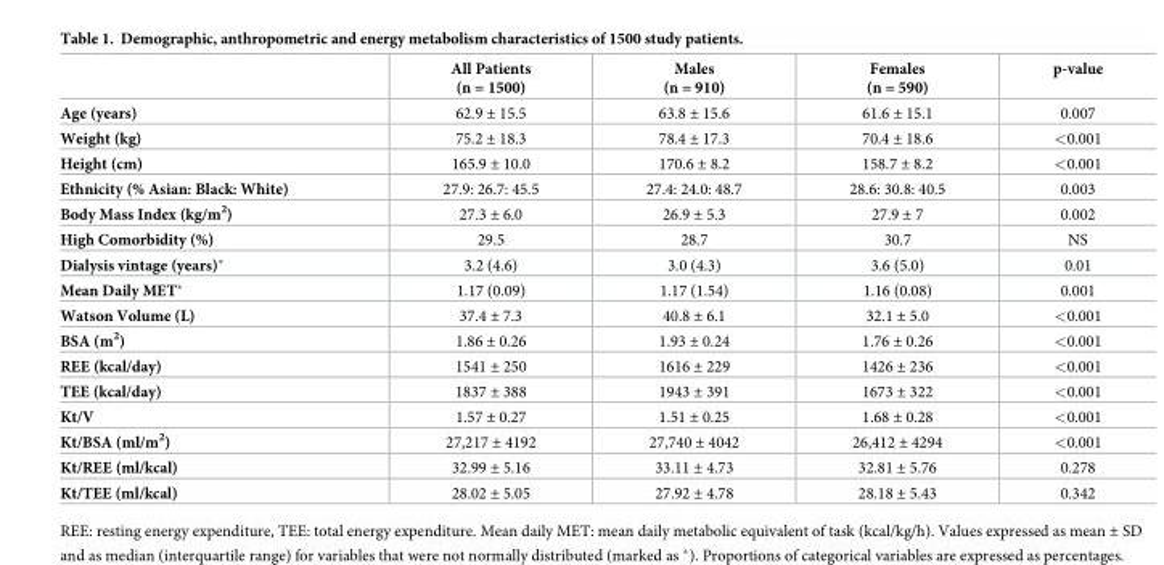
<table><thead><tr><td></td><td>All Patients (n = 1500)</td><td>Males (n = 910)</td><td>Females (n = 590)</td><td>p-value</td></tr></thead><tbody><tr><td>Age (years)</td><td>62.9 ± 15.5</td><td>63.8 ± 15.6</td><td>61.6 ± 15.1</td><td>0.007</td></tr><tr><td>Weight (kg)</td><td>75.2 ± 18.3</td><td>78.4 ± 17.3</td><td>70.4 ± 18.6</td><td>&lt;0.001</td></tr><tr><td>Height (cm)</td><td>165.9 ± 10.0</td><td>170.6 ± 8.2</td><td>158.7 ± 8.2</td><td>&lt;0.001</td></tr><tr><td>Ethnicity (% Asian: Black: White)</td><td>27.9: 26.7: 45.5</td><td>27.4: 24.0: 48.7</td><td>28.6: 30.8: 40.5</td><td>0.003</td></tr><tr><td>Body Mass Index (kg/m<sup>2</sup>)</td><td>27.3 ± 6.0</td><td>26.9 ± 5.3</td><td>27.9 ± 7</td><td>0.002</td></tr><tr><td>High Comorbidity (%)</td><td>29.5</td><td>28.7</td><td>30.7</td><td>NS</td></tr><tr><td>Dialysis vintage (years)*</td><td>3.2 (4.6)</td><td>3.0 (4.3)</td><td>3.6 (5.0)</td><td>0.01</td></tr><tr><td>Mean Daily MET*</td><td>1.17 (0.09)</td><td>1.17 (1.54)</td><td>1.16 (0.08)</td><td>0.001</td></tr><tr><td>Watson Volume (L)</td><td>37.4 ± 7.3</td><td>40.8 ± 6.1</td><td>32.1 ± 5.0</td><td>&lt;0.001</td></tr><tr><td>BSA (m<sup>2</sup>)</td><td>1.86 ± 0.26</td><td>1.93 ± 0.24</td><td>1.76 ± 0.26</td><td>&lt;0.001</td></tr><tr><td>REE (kcal/day)</td><td>1541 ± 250</td><td>1616 ± 229</td><td>1426 ± 236</td><td>&lt;0.001</td></tr><tr><td>TEE (kcal/day)</td><td>1837 ± 388</td><td>1943 ± 391</td><td>1673 ± 322</td><td>&lt;0.001</td></tr><tr><td>Kt/V</td><td>1.57 ± 0.27</td><td>1.51 ± 0.25</td><td>1.68 ± 0.28</td><td>&lt;0.001</td></tr><tr><td>Kt/BSA (ml/m<sup>2</sup>)</td><td>27,217 ± 4192</td><td>27,740 ± 4042</td><td>26,412 ± 4294</td><td>&lt;0.001</td></tr><tr><td>Kt/REE (ml/kcal)</td><td>32.99 ± 5.16</td><td>33.11 ± 4.73</td><td>32.81 ± 5.76</td><td>0.278</td></tr><tr><td>Kt/TEE (ml/kcal)</td><td>28.02 ± 5.05</td><td>27.92 ± 4.78</td><td>28.18 ± 5.43</td><td>0.342</td></tr></tbody></table>